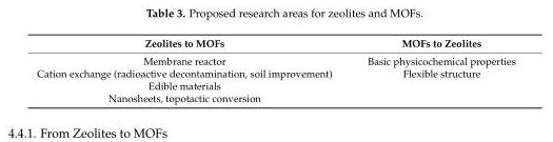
<table><thead><tr><td>Zeolites to MOFs</td><td>MOFs to Zeolites</td></tr></thead><tbody><tr><td>Membrane reactor</td><td>Basic physicochemical properties</td></tr><tr><td>Cation exchange (radioactive decontamination, soil improvement)</td><td>Flexible structure</td></tr><tr><td colspan="2">Edible materials</td></tr><tr><td>Nanosheets, topotactic conversion</td><td></td></tr></tbody></table>